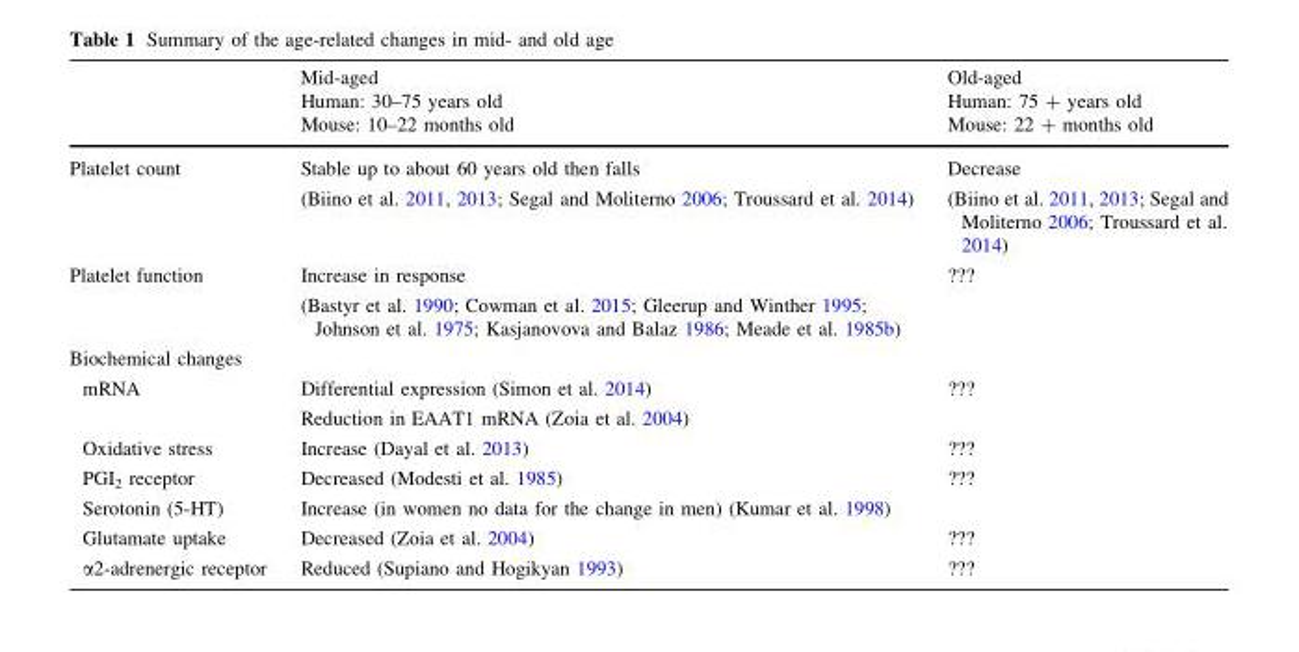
<table><thead><tr><td></td><td>Mid-aged Human: 30–75 years old Mouse: 10–22 months old</td><td>Old-aged Human: 75 + years old Mouse: 22 + months old</td></tr></thead><tbody><tr><td>Platelet count</td><td>Stable up to about 60 years old then falls (Biino et al. 2011, 2013; Segal and Moliterno 2006; Troussard et al. 2014)</td><td>Decrease (Biino et al. 2011, 2013; Segal and Moliterno 2006; Troussard et al. 2014)</td></tr><tr><td>Platelet function</td><td>Increase in response (Bastyr et al. 1990; Cowman et al. 2015; Gleerup and Winther 1995; Johnson et al. 1975; Kasjanovova and Balaz 1986; Meade et al. 1985b)</td><td>???</td></tr><tr><td colspan="3">Biochemical changes</td></tr><tr><td>mRNA</td><td>Differential expression (Simon et al. 2014) Reduction in EAAT1 mRNA (Zoia et al. 2004)</td><td>???</td></tr><tr><td>Oxidative stress</td><td>Increase (Dayal et al. 2013)</td><td>???</td></tr><tr><td>PGI<sub>2</sub> receptor</td><td>Decreased (Modesti et al. 1985)</td><td>???</td></tr><tr><td>Serotonin (5-HT)</td><td colspan="2">Increase (in women no data for the change in men) (Kumar et al. 1998)</td></tr><tr><td>Glutamate uptake</td><td>Decreased (Zoia et al. 2004)</td><td>???</td></tr><tr><td>α2-adrenergic receptor</td><td>Reduced (Supiano and Hogikyan 1993)</td><td>???</td></tr></tbody></table>